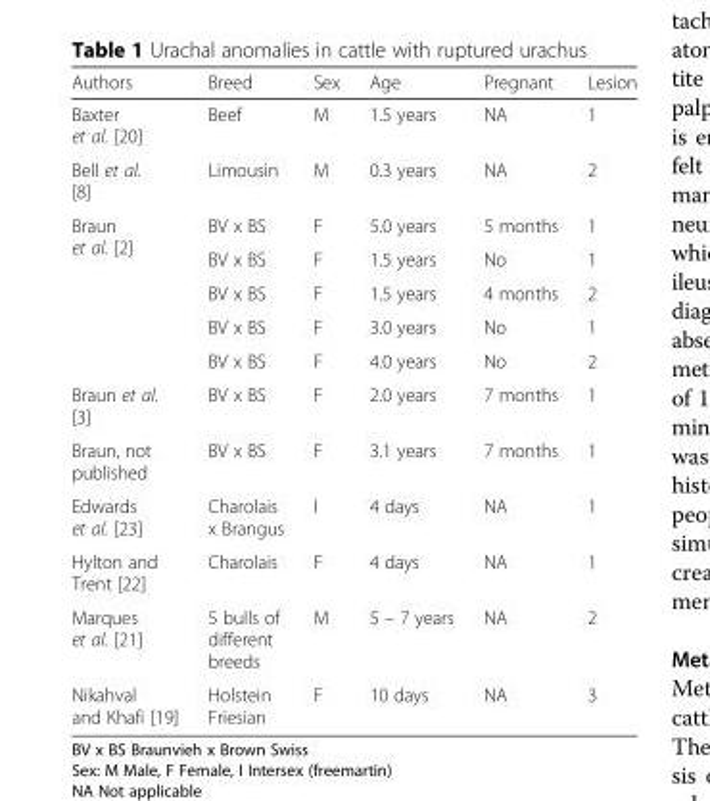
<table><thead><tr><td>Authors</td><td>Breed</td><td>Sex</td><td>Age</td><td>Pregnant</td><td>Lesion</td></tr></thead><tbody><tr><td>Baxter et al. [20]</td><td>Beef</td><td>M</td><td>1.5 years</td><td>NA</td><td>1</td></tr><tr><td>Bell et al. [8]</td><td>Limousin</td><td>M</td><td>0.3 years</td><td>NA</td><td>2</td></tr><tr><td rowspan="5">Braun et al. [2]</td><td>BV x BS</td><td>F</td><td>5.0 years</td><td>5 months</td><td>1</td></tr><tr><td>BV x BS</td><td>F</td><td>1.5 years</td><td>No</td><td>1</td></tr><tr><td>BV x BS</td><td>F</td><td>1.5 years</td><td>4 months</td><td>2</td></tr><tr><td>BV x BS</td><td>F</td><td>3.0 years</td><td>No</td><td>1</td></tr><tr><td>BV x BS</td><td>F</td><td>4.0 years</td><td>No</td><td>2</td></tr><tr><td>Braun et al. [3]</td><td>BV x BS</td><td>F</td><td>2.0 years</td><td>7 months</td><td>1</td></tr><tr><td>Braun, not published</td><td>BV x BS</td><td>F</td><td>3.1 years</td><td>7 months</td><td>1</td></tr><tr><td>Edwards et al. [23]</td><td>Charolais x Brangus</td><td>I</td><td>4 days</td><td>NA</td><td>1</td></tr><tr><td>Hylton and Trent [22]</td><td>Charolais</td><td>F</td><td>4 days</td><td>NA</td><td>1</td></tr><tr><td>Marques et al. [21]</td><td>5 bulls of different breeds</td><td>M</td><td>5 – 7 years</td><td>NA</td><td>2</td></tr><tr><td>Nikahval and Khafi [19]</td><td>Holstein Friesian</td><td>F</td><td>10 days</td><td>NA</td><td>3</td></tr></tbody></table>